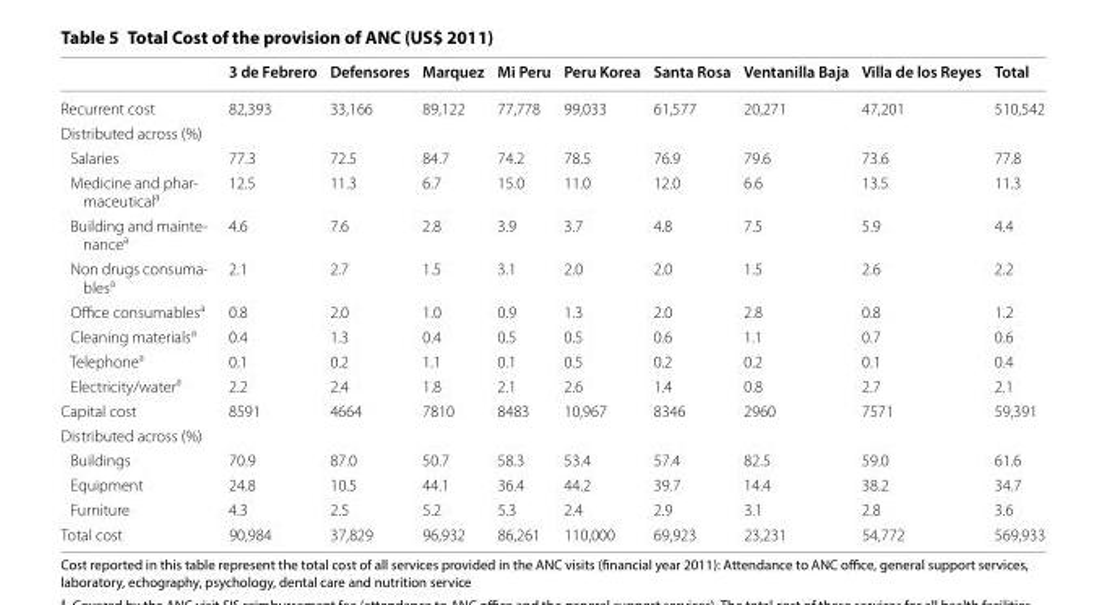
<table><thead><tr><td></td><td>3 de Febrero</td><td>Defensores</td><td>Marquez</td><td>Mi Peru</td><td>Peru Korea</td><td>Santa Rosa</td><td>Ventanilla Baja</td><td>Villa de los Reyes</td><td>Total</td></tr></thead><tbody><tr><td>Recurrent cost</td><td>82,393</td><td>33,166</td><td>89,122</td><td>77,778</td><td>99,033</td><td>61,577</td><td>20,271</td><td>47,201</td><td>510,542</td></tr><tr><td colspan="10">Distributed across (%)</td></tr><tr><td>Salaries</td><td>77.3</td><td>72.5</td><td>84.7</td><td>74.2</td><td>78.5</td><td>76.9</td><td>79.6</td><td>73.6</td><td>77.8</td></tr><tr><td>Medicine and phar‑ maceuticala</td><td>12.5</td><td>11.3</td><td>6.7</td><td>15.0</td><td>11.0</td><td>12.0</td><td>6.6</td><td>13.5</td><td>11.3</td></tr><tr><td>Building and mainte‑ nancea</td><td>4.6</td><td>7.6</td><td>2.8</td><td>3.9</td><td>3.7</td><td>4.8</td><td>7.5</td><td>5.9</td><td>4.4</td></tr><tr><td>Non drugs consuma‑ blesa</td><td>2.1</td><td>2.7</td><td>1.5</td><td>3.1</td><td>2.0</td><td>2.0</td><td>1.5</td><td>2.6</td><td>2.2</td></tr><tr><td>Office consumables<sup>a</sup></td><td>0.8</td><td>2.0</td><td>1.0</td><td>0.9</td><td>1.3</td><td>2.0</td><td>2.8</td><td>0.8</td><td>1.2</td></tr><tr><td>Cleaning materials<sup>a</sup></td><td>0.4</td><td>1.3</td><td>0.4</td><td>0.5</td><td>0.5</td><td>0.6</td><td>1.1</td><td>0.7</td><td>0.6</td></tr><tr><td>Telephone<sup>a</sup></td><td>0.1</td><td>0.2</td><td>1.1</td><td>0.1</td><td>0.5</td><td>0.2</td><td>0.2</td><td>0.1</td><td>0.4</td></tr><tr><td>Electricity/water<sup>a</sup></td><td>2.2</td><td>2.4</td><td>1.8</td><td>2.1</td><td>2.6</td><td>1.4</td><td>0.8</td><td>2.7</td><td>2.1</td></tr><tr><td>Capital cost</td><td>8591</td><td>4664</td><td>7810</td><td>8483</td><td>10,967</td><td>8346</td><td>2960</td><td>7571</td><td>59,391</td></tr><tr><td colspan="10">Distributed across (%)</td></tr><tr><td>Buildings</td><td>70.9</td><td>87.0</td><td>50.7</td><td>58.3</td><td>53.4</td><td>57.4</td><td>82.5</td><td>59.0</td><td>61.6</td></tr><tr><td>Equipment</td><td>24.8</td><td>10.5</td><td>44.1</td><td>36.4</td><td>44.2</td><td>39.7</td><td>14.4</td><td>38.2</td><td>34.7</td></tr><tr><td>Furniture</td><td>4.3</td><td>2.5</td><td>5.2</td><td>5.3</td><td>2.4</td><td>2.9</td><td>3.1</td><td>2.8</td><td>3.6</td></tr><tr><td>Total cost</td><td>90,984</td><td>37,829</td><td>96,932</td><td>86,261</td><td>110,000</td><td>69,923</td><td>23,231</td><td>54,772</td><td>569,933</td></tr></tbody></table>